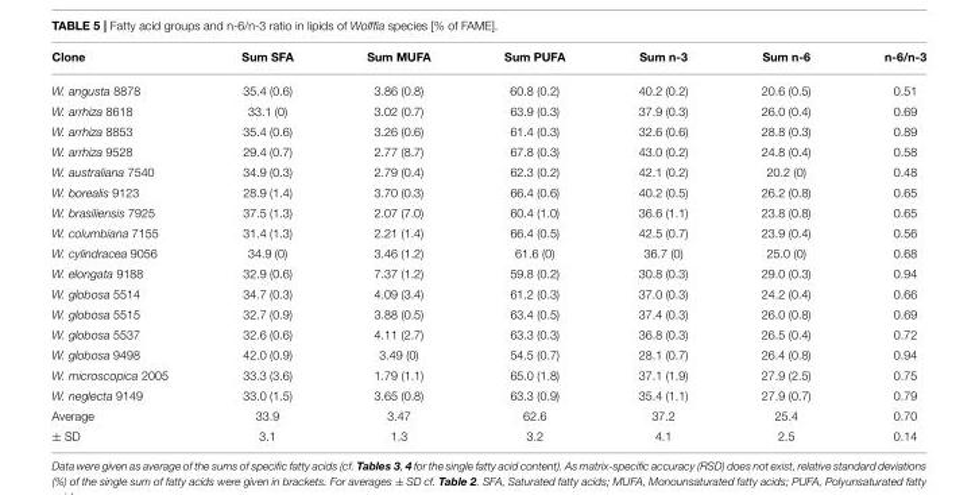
<table><thead><tr><td>Clone</td><td>Sum SFA</td><td>Sum MUFA</td><td>Sum PUFA</td><td>Sum n-3</td><td>Sum n-6</td><td>n-6/n-3</td></tr></thead><tbody><tr><td>W. angusta 8878</td><td>35.4 (0.6)</td><td>3.86 (0.8)</td><td>60.8 (0.2)</td><td>40.2 (0.2)</td><td>20.6 (0.5)</td><td>0.51</td></tr><tr><td>W. arrhiza 8618</td><td>33.1 (0)</td><td>3.02 (0.7)</td><td>63.9 (0.3)</td><td>37.9 (0.3)</td><td>26.0 (0.4)</td><td>0.69</td></tr><tr><td>W. arrhiza 8853</td><td>35.4 (0.6)</td><td>3.26 (0.6)</td><td>61.4 (0.3)</td><td>32.6 (0.6)</td><td>28.8 (0.3)</td><td>0.89</td></tr><tr><td>W. arrhiza 9528</td><td>29.4 (0.7)</td><td>2.77 (8.7)</td><td>67.8 (0.3)</td><td>43.0 (0.2)</td><td>24.8 (0.4)</td><td>0.58</td></tr><tr><td>W. australiana 7540</td><td>34.9 (0.3)</td><td>2.79 (0.4)</td><td>62.3 (0.2)</td><td>42.1 (0.2)</td><td>20.2 (0)</td><td>0.48</td></tr><tr><td>W. borealis 9123</td><td>28.9 (1.4)</td><td>3.70 (0.3)</td><td>66.4 (0.6)</td><td>40.2 (0.5)</td><td>26.2 (0.8)</td><td>0.65</td></tr><tr><td>W. brasiliensis 7925</td><td>37.5 (1.3)</td><td>2.07 (7.0)</td><td>60.4 (1.0)</td><td>36.6 (1.1)</td><td>23.8 (0.8)</td><td>0.65</td></tr><tr><td>W. columbiana 7155</td><td>31.4 (1.3)</td><td>2.21 (1.4)</td><td>66.4 (0.5)</td><td>42.5 (0.7)</td><td>23.9 (0.4)</td><td>0.56</td></tr><tr><td>W. cylindracea 9056</td><td>34.9 (0)</td><td>3.46 (1.2)</td><td>61.6 (0)</td><td>36.7 (0)</td><td>25.0 (0)</td><td>0.68</td></tr><tr><td>W. elongata 9188</td><td>32.9 (0.6)</td><td>7.37 (1.2)</td><td>59.8 (0.2)</td><td>30.8 (0.3)</td><td>29.0 (0.3)</td><td>0.94</td></tr><tr><td>W. globosa 5514</td><td>34.7 (0.3)</td><td>4.09 (3.4)</td><td>61.2 (0.3)</td><td>37.0 (0.3)</td><td>24.2 (0.4)</td><td>0.66</td></tr><tr><td>W. globosa 5515</td><td>32.7 (0.9)</td><td>3.88 (0.5)</td><td>63.4 (0.5)</td><td>37.4 (0.3)</td><td>26.0 (0.8)</td><td>0.69</td></tr><tr><td>W. globosa 5537</td><td>32.6 (0.6)</td><td>4.11 (2.7)</td><td>63.3 (0.3)</td><td>36.8 (0.3)</td><td>26.5 (0.4)</td><td>0.72</td></tr><tr><td>W. globosa 9498</td><td>42.0 (0.9)</td><td>3.49 (0)</td><td>54.5 (0.7)</td><td>28.1 (0.7)</td><td>26.4 (0.8)</td><td>0.94</td></tr><tr><td>W. microscopica 2005</td><td>33.3 (3.6)</td><td>1.79 (1.1)</td><td>65.0 (1.8)</td><td>37.1 (1.9)</td><td>27.9 (2.5)</td><td>0.75</td></tr><tr><td>W. neglecta 9149</td><td>33.0 (1.5)</td><td>3.65 (0.8)</td><td>63.3 (0.9)</td><td>35.4 (1.1)</td><td>27.9 (0.7)</td><td>0.79</td></tr><tr><td>Average</td><td>33.9</td><td>3.47</td><td>62.6</td><td>37.2</td><td>25.4</td><td>0.70</td></tr><tr><td>± SD</td><td>3.1</td><td>1.3</td><td>3.2</td><td>4.1</td><td>2.5</td><td>0.14</td></tr></tbody></table>